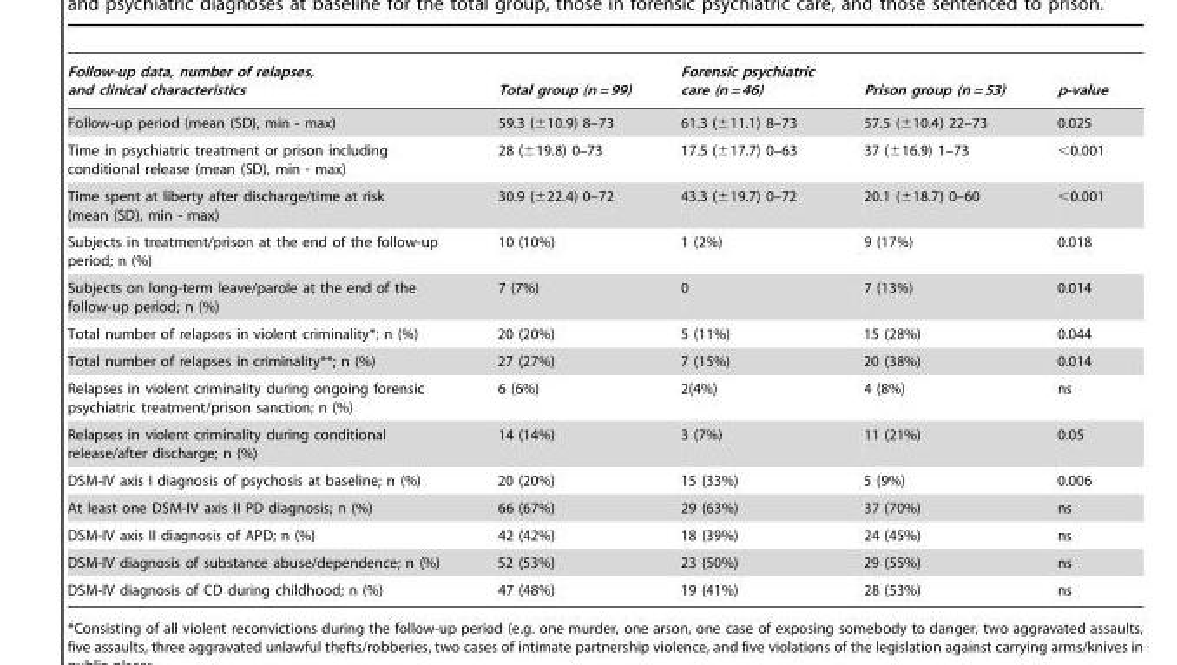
<table><thead><tr><td>Follow-up data, number of relapses, and clinical characteristics</td><td>Total group (n = 99)</td><td>Forensic psychiatric care (n = 46)</td><td>Prison group (n = 53)</td><td>p-value</td></tr></thead><tbody><tr><td>Follow-up period (mean (SD), min - max)</td><td>59.3 (±10.9) 8–73</td><td>61.3 (±11.1) 8–73</td><td>57.5 (±10.4) 22–73</td><td>0.025</td></tr><tr><td>Time in psychiatric treatment or prison including conditional release (mean (SD), min - max)</td><td>28 (±19.8) 0–73</td><td>17.5 (±17.7) 0–63</td><td>37 (±16.9) 1–73</td><td>&lt;0.001</td></tr><tr><td>Time spent at liberty after discharge/time at risk (mean (SD), min - max)</td><td>30.9 (±22.4) 0–72</td><td>43.3 (±19.7) 0–72</td><td>20.1 (±18.7) 0–60</td><td>&lt;0.001</td></tr><tr><td>Subjects in treatment/prison at the end of the follow-up period; n (%)</td><td>10 (10%)</td><td>1 (2%)</td><td>9 (17%)</td><td>0.018</td></tr><tr><td>Subjects on long-term leave/parole at the end of the follow-up period; n (%)</td><td>7 (7%)</td><td>0</td><td>7 (13%)</td><td>0.014</td></tr><tr><td>Total number of relapses in violent criminality*; n (%)</td><td>20 (20%)</td><td>5 (11%)</td><td>15 (28%)</td><td>0.044</td></tr><tr><td>Total number of relapses in criminality**; n (%)</td><td>27 (27%)</td><td>7 (15%)</td><td>20 (38%)</td><td>0.014</td></tr><tr><td>Relapses in violent criminality during ongoing forensic psychiatric treatment/prison sanction; n (%)</td><td>6 (6%)</td><td>2(4%)</td><td>4 (8%)</td><td>ns</td></tr><tr><td>Relapses in violent criminality during conditional release/after discharge; n (%)</td><td>14 (14%)</td><td>3 (7%)</td><td>11 (21%)</td><td>0.05</td></tr><tr><td>DSM-IV axis I diagnosis of psychosis at baseline; n (%)</td><td>20 (20%)</td><td>15 (33%)</td><td>5 (9%)</td><td>0.006</td></tr><tr><td>At least one DSM-IV axis II PD diagnosis; n (%)</td><td>66 (67%)</td><td>29 (63%)</td><td>37 (70%)</td><td>ns</td></tr><tr><td>DSM-IV axis II diagnosis of APD; n (%)</td><td>42 (42%)</td><td>18 (39%)</td><td>24 (45%)</td><td>ns</td></tr><tr><td>DSM-IV diagnosis of substance abuse/dependence; n (%)</td><td>52 (53%)</td><td>23 (50%)</td><td>29 (55%)</td><td>ns</td></tr><tr><td>DSM-IV diagnosis of CD during childhood; n (%)</td><td>47 (48%)</td><td>19 (41%)</td><td>28 (53%)</td><td>ns</td></tr></tbody></table>